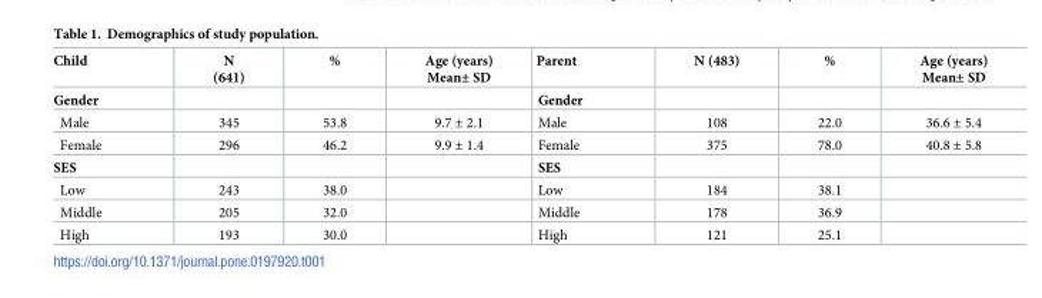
<table><thead><tr><td>Child</td><td>N (641)</td><td>%</td><td>Age (years) Mean± SD</td><td>Parent</td><td>N (483)</td><td>%</td><td>Age (years) Mean± SD</td></tr></thead><tbody><tr><td>Gender</td><td></td><td></td><td></td><td>Gender</td><td></td><td></td><td></td></tr><tr><td>Male</td><td>345</td><td>53.8</td><td>9.7 ± 2.1</td><td>Male</td><td>108</td><td>22.0</td><td>36.6 ± 5.4</td></tr><tr><td>Female</td><td>296</td><td>46.2</td><td>9.9 ± 1.4</td><td>Female</td><td>375</td><td>78.0</td><td>40.8 ± 5.8</td></tr><tr><td>SES</td><td></td><td></td><td></td><td>SES</td><td></td><td></td><td></td></tr><tr><td>Low</td><td>243</td><td>38.0</td><td></td><td>Low</td><td>184</td><td>38.1</td><td></td></tr><tr><td>Middle</td><td>205</td><td>32.0</td><td></td><td>Middle</td><td>178</td><td>36.9</td><td></td></tr><tr><td>High</td><td>193</td><td>30.0</td><td></td><td>High</td><td>121</td><td>25.1</td><td></td></tr></tbody></table>